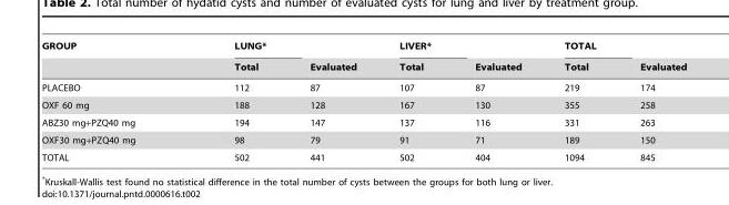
<table><thead><tr><td rowspan="2">GROUP</td><td rowspan="2">LUNG* Total</td><td rowspan="2">Evaluated</td><td rowspan="2">LIVER* Total</td><td rowspan="2">Evaluated</td><td rowspan="2">TOTAL Total</td><td rowspan="2">Evaluated</td></tr><tr></tr></thead><tbody><tr><td>PLACEBO</td><td>112</td><td>87</td><td>107</td><td>87</td><td>219</td><td>174</td></tr><tr><td>OXF 60 mg</td><td>188</td><td>128</td><td>167</td><td>130</td><td>355</td><td>258</td></tr><tr><td>ABZ30 mg+PZQ40 mg</td><td>194</td><td>147</td><td>137</td><td>116</td><td>331</td><td>263</td></tr><tr><td>OXF30 mg+PZQ40 mg</td><td>98</td><td>79</td><td>91</td><td>71</td><td>189</td><td>150</td></tr><tr><td>TOTAL</td><td>502</td><td>441</td><td>502</td><td>404</td><td>1094</td><td>845</td></tr></tbody></table>